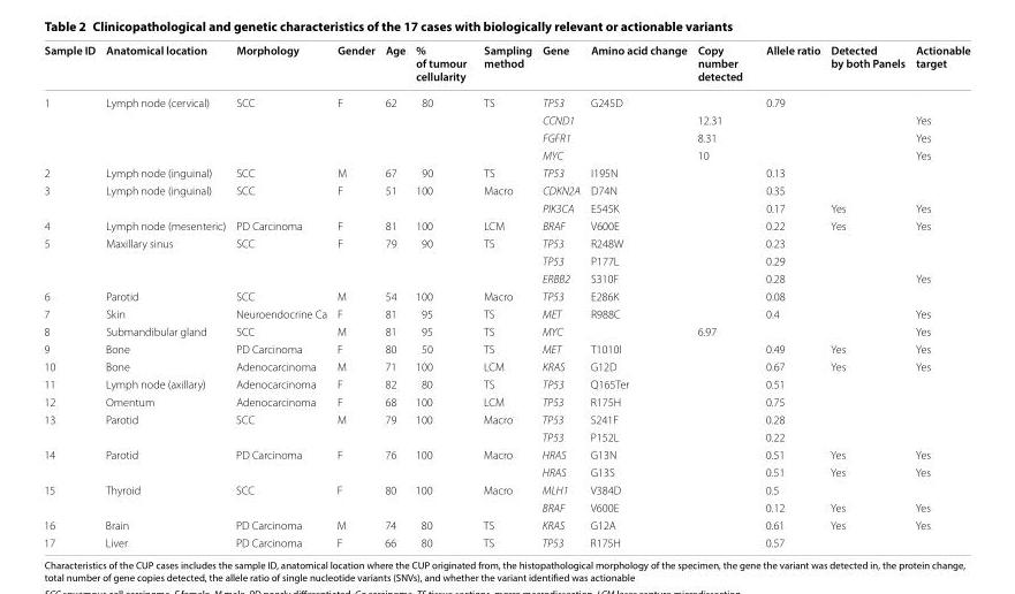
<table><thead><tr><td>Sample ID</td><td>Anatomical location</td><td>Morphology</td><td>Gender</td><td>Age</td><td>% of tumour cellularity</td><td>Sampling method</td><td>Gene</td><td>Amino acid change</td><td>Copy number detected</td><td>Allele ratio</td><td>Detected by both Panels</td><td>Actionable target</td></tr></thead><tbody><tr><td rowspan="4">1</td><td>Lymph node (cervical)</td><td>SCC</td><td>F</td><td>62</td><td>80</td><td>TS</td><td>TP53</td><td>G245D</td><td></td><td>0.79</td><td></td><td></td></tr><tr><td></td><td></td><td></td><td></td><td></td><td></td><td>CCND1</td><td></td><td>12.31</td><td></td><td></td><td>Yes</td></tr><tr><td></td><td></td><td></td><td></td><td></td><td></td><td>FGFR1</td><td></td><td>8.31</td><td></td><td></td><td>Yes</td></tr><tr><td></td><td></td><td></td><td></td><td></td><td></td><td>MYC</td><td></td><td>10</td><td></td><td></td><td>Yes</td></tr><tr><td>2</td><td>Lymph node (inguinal)</td><td>SCC</td><td>M</td><td>67</td><td>90</td><td>TS</td><td>TP53</td><td>I195N</td><td></td><td>0.13</td><td></td><td></td></tr><tr><td rowspan="2">3</td><td>Lymph node (inguinal)</td><td>SCC</td><td>F</td><td>51</td><td>100</td><td>Macro</td><td>CDKN2A</td><td>D74N</td><td></td><td>0.35</td><td></td><td></td></tr><tr><td></td><td></td><td></td><td></td><td></td><td></td><td>PIK3CA</td><td>E545K</td><td></td><td>0.17</td><td>Yes</td><td>Yes</td></tr><tr><td>4</td><td>Lymph node (mesenteric)</td><td>PD Carcinoma</td><td>F</td><td>81</td><td>100</td><td>LCM</td><td>BRAF</td><td>V600E</td><td></td><td>0.22</td><td>Yes</td><td>Yes</td></tr><tr><td rowspan="3">5</td><td>Maxillary sinus</td><td>SCC</td><td>F</td><td>79</td><td>90</td><td>TS</td><td>TP53</td><td>R248W</td><td></td><td>0.23</td><td></td><td></td></tr><tr><td></td><td></td><td></td><td></td><td></td><td></td><td>TP53</td><td>P177L</td><td></td><td>0.29</td><td></td><td></td></tr><tr><td></td><td></td><td></td><td></td><td></td><td></td><td>ERBB2</td><td>S310F</td><td></td><td>0.28</td><td></td><td>Yes</td></tr><tr><td>6</td><td>Parotid</td><td>SCC</td><td>M</td><td>54</td><td>100</td><td>Macro</td><td>TP53</td><td>E286K</td><td></td><td>0.08</td><td></td><td></td></tr><tr><td>7</td><td>Skin</td><td>Neuroendocrine Ca</td><td>F</td><td>81</td><td>95</td><td>TS</td><td>MET</td><td>R988C</td><td></td><td>0.4</td><td></td><td>Yes</td></tr><tr><td>8</td><td>Submandibular gland</td><td>SCC</td><td>M</td><td>81</td><td>95</td><td>TS</td><td>MYC</td><td></td><td>6.97</td><td></td><td></td><td>Yes</td></tr><tr><td>9</td><td>Bone</td><td>PD Carcinoma</td><td>F</td><td>80</td><td>50</td><td>TS</td><td>MET</td><td>T1010I</td><td></td><td>0.49</td><td>Yes</td><td>Yes</td></tr><tr><td>10</td><td>Bone</td><td>Adenocarcinoma</td><td>M</td><td>71</td><td>100</td><td>LCM</td><td>KRAS</td><td>G12D</td><td></td><td>0.67</td><td>Yes</td><td>Yes</td></tr><tr><td>11</td><td>Lymph node (axillary)</td><td>Adenocarcinoma</td><td>F</td><td>82</td><td>80</td><td>TS</td><td>TP53</td><td>Q165Ter</td><td></td><td>0.51</td><td></td><td></td></tr><tr><td>12</td><td>Omentum</td><td>Adenocarcinoma</td><td>F</td><td>68</td><td>100</td><td>LCM</td><td>TP53</td><td>R175H</td><td></td><td>0.75</td><td></td><td></td></tr><tr><td rowspan="2">13</td><td>Parotid</td><td>SCC</td><td>M</td><td>79</td><td>100</td><td>Macro</td><td>TP53</td><td>S241F</td><td></td><td>0.28</td><td></td><td></td></tr><tr><td></td><td></td><td></td><td></td><td></td><td></td><td>TP53</td><td>P152L</td><td></td><td>0.22</td><td></td><td></td></tr><tr><td rowspan="2">14</td><td>Parotid</td><td>PD Carcinoma</td><td>F</td><td>76</td><td>100</td><td>Macro</td><td>HRAS</td><td>G13N</td><td></td><td>0.51</td><td>Yes</td><td>Yes</td></tr><tr><td></td><td></td><td></td><td></td><td></td><td></td><td>HRAS</td><td>G13S</td><td></td><td>0.51</td><td>Yes</td><td>Yes</td></tr><tr><td rowspan="2">15</td><td>Thyroid</td><td>SCC</td><td>F</td><td>80</td><td>100</td><td>Macro</td><td>MLH1</td><td>V384D</td><td></td><td>0.5</td><td></td><td></td></tr><tr><td></td><td></td><td></td><td></td><td></td><td></td><td>BRAF</td><td>V600E</td><td></td><td>0.12</td><td>Yes</td><td>Yes</td></tr><tr><td>16</td><td>Brain</td><td>PD Carcinoma</td><td>M</td><td>74</td><td>80</td><td>TS</td><td>KRAS</td><td>G12A</td><td></td><td>0.61</td><td>Yes</td><td>Yes</td></tr><tr><td>17</td><td>Liver</td><td>PD Carcinoma</td><td>F</td><td>66</td><td>80</td><td>TS</td><td>TP53</td><td>R175H</td><td></td><td>0.57</td><td></td><td></td></tr></tbody></table>